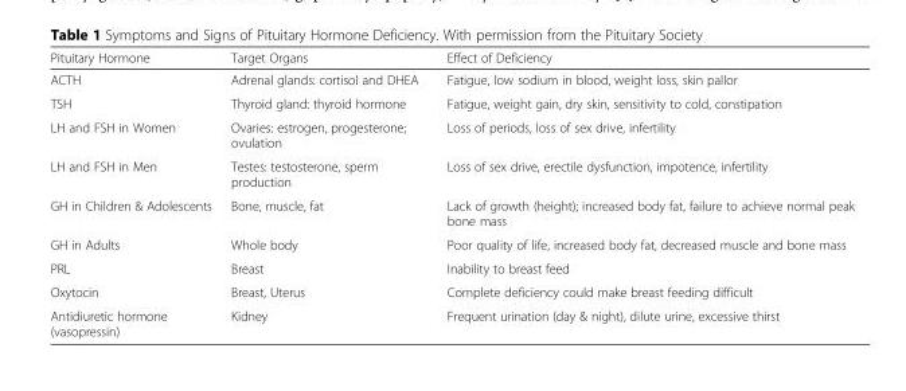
<table><thead><tr><td>Pituitary Hormone</td><td>Target Organs</td><td>Effect of Deficiency</td></tr></thead><tbody><tr><td>ACTH</td><td>Adrenal glands: cortisol and DHEA</td><td>Fatigue, low sodium in blood, weight loss, skin pallor</td></tr><tr><td>TSH</td><td>Thyroid gland: thyroid hormone</td><td>Fatigue, weight gain, dry skin, sensitivity to cold, constipation</td></tr><tr><td>LH and FSH in Women</td><td>Ovaries: estrogen, progesterone; ovulation</td><td>Loss of periods, loss of sex drive, infertility</td></tr><tr><td>LH and FSH in Men</td><td>Testes: testosterone, sperm production</td><td>Loss of sex drive, erectile dysfunction, impotence, infertility</td></tr><tr><td>GH in Children &amp; Adolescents</td><td>Bone, muscle, fat</td><td>Lack of growth (height); increased body fat, failure to achieve normal peak bone mass</td></tr><tr><td>GH in Adults</td><td>Whole body</td><td>Poor quality of life, increased body fat, decreased muscle and bone mass</td></tr><tr><td>PRL</td><td>Breast</td><td>Inability to breast feed</td></tr><tr><td>Oxytocin</td><td>Breast, Uterus</td><td>Complete deficiency could make breast feeding difficult</td></tr><tr><td>Antidiuretic hormone (vasopressin)</td><td>Kidney</td><td>Frequent urination (day &amp; night), dilute urine, excessive thirst</td></tr></tbody></table>